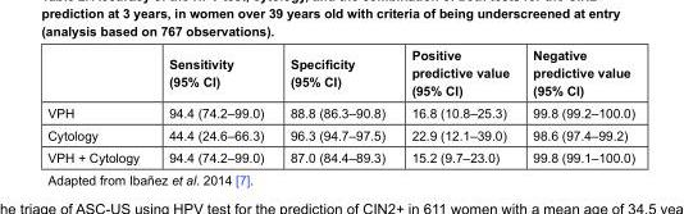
<table><thead><tr><td></td><td>Sensitivity (95% CI)</td><td>Specificity (95% CI)</td><td>Positive predictive value (95% CI)</td><td>Negative predictive value (95% CI)</td></tr></thead><tbody><tr><td>VPH</td><td>94.4 (74.2–99.0)</td><td>88.8 (86.3–90.8)</td><td>16.8 (10.8–25.3)</td><td>99.8 (99.2–100.0)</td></tr><tr><td>Cytology</td><td>44.4 (24.6–66.3)</td><td>96.3 (94.7–97.5)</td><td>22.9 (12.1–39.0)</td><td>98.6 (97.4–99.2)</td></tr><tr><td>VPH + Cytology</td><td>94.4 (74.2–99.0)</td><td>87.0 (84.4–89.3)</td><td>15.2 (9.7–23.0)</td><td>99.8 (99.1–100.0)</td></tr></tbody></table>